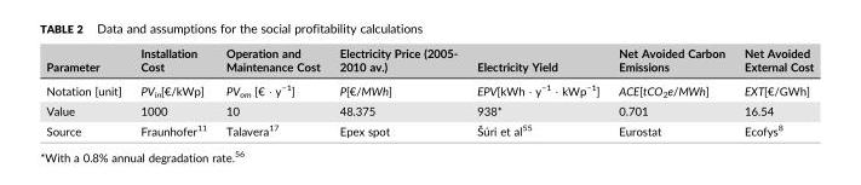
<table><thead><tr><td>Parameter</td><td>Installation Cost</td><td>Operation and Maintenance Cost</td><td>Electricity Price (2005‐ 2010 av.)</td><td>Electricity Yield</td><td>Net Avoided Carbon Emissions</td><td>Net Avoided External Cost</td></tr></thead><tbody><tr><td>Notation [unit]</td><td>PV<sub>in</sub>[€/kWp]</td><td>PV<sub>om</sub> [€ ⋅ y<sup>−1</sup>]</td><td>P[€/MWh]</td><td>EPV[kWh ⋅ y<sup>−1</sup> ⋅ kWp<sup>−1</sup>]</td><td>ACE[tCO<sub>2</sub>e/MWh]</td><td>EXT[€/GWh]</td></tr><tr><td>Value</td><td>1000</td><td>10</td><td>48.375</td><td>938*</td><td>0.701</td><td>16.54</td></tr><tr><td>Source</td><td>Fraunhofer<sup>11</sup></td><td>Talavera<sup>17</sup></td><td>Epex spot</td><td>Šúri et al<sup>55</sup></td><td>Eurostat</td><td>Ecofys<sup>8</sup></td></tr></tbody></table>